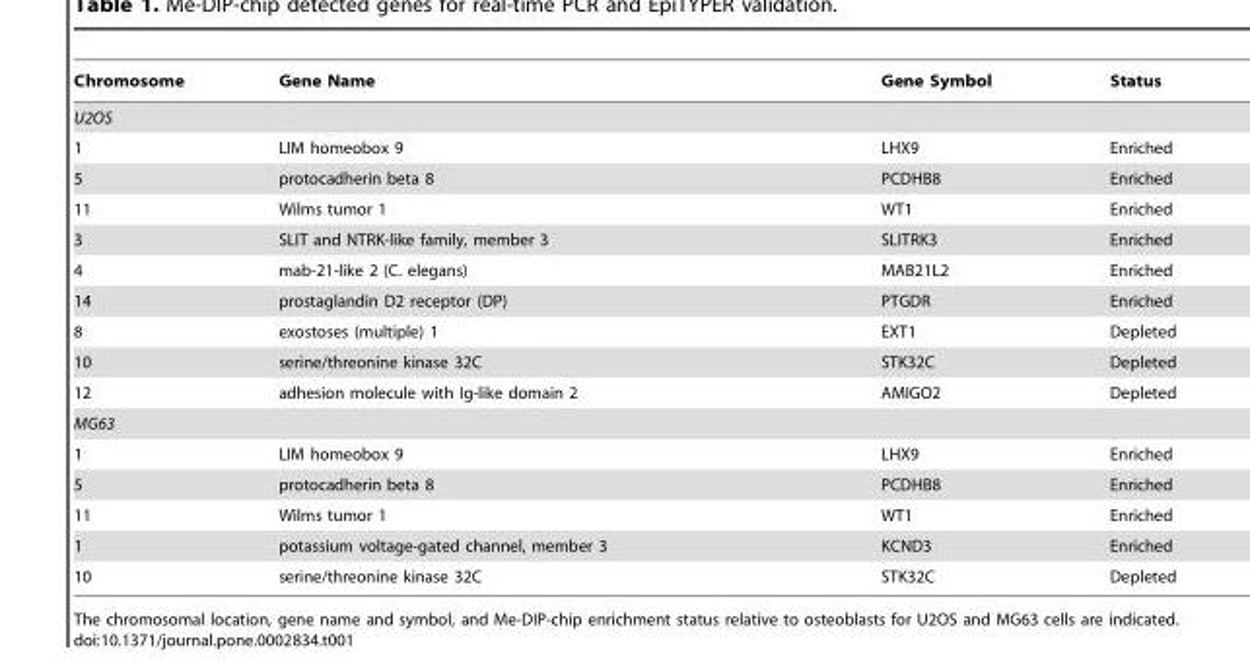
<table><thead><tr><td>Chromosome</td><td>Gene Name</td><td>Gene Symbol</td><td>Status</td></tr></thead><tbody><tr><td colspan="4">U2OS</td></tr><tr><td>1</td><td>LIM homeobox 9</td><td>LHX9</td><td>Enriched</td></tr><tr><td>5</td><td>protocadherin beta 8</td><td>PCDHB8</td><td>Enriched</td></tr><tr><td>11</td><td>Wilms tumor 1</td><td>WT1</td><td>Enriched</td></tr><tr><td>3</td><td>SLIT and NTRK-like family, member 3</td><td>SLITRK3</td><td>Enriched</td></tr><tr><td>4</td><td>mab-21-like 2 (C. elegans)</td><td>MAB21L2</td><td>Enriched</td></tr><tr><td>14</td><td>prostaglandin D2 receptor (DP)</td><td>PTGDR</td><td>Enriched</td></tr><tr><td>8</td><td>exostoses (multiple) 1</td><td>EXT1</td><td>Depleted</td></tr><tr><td>10</td><td>serine/threonine kinase 32C</td><td>STK32C</td><td>Depleted</td></tr><tr><td>12</td><td>adhesion molecule with Ig-like domain 2</td><td>AMIGO2</td><td>Depleted</td></tr><tr><td colspan="4">MG63</td></tr><tr><td>1</td><td>LIM homeobox 9</td><td>LHX9</td><td>Enriched</td></tr><tr><td>5</td><td>protocadherin beta 8</td><td>PCDHB8</td><td>Enriched</td></tr><tr><td>11</td><td>Wilms tumor 1</td><td>WT1</td><td>Enriched</td></tr><tr><td>1</td><td>potassium voltage-gated channel, member 3</td><td>KCND3</td><td>Enriched</td></tr><tr><td>10</td><td>serine/threonine kinase 32C</td><td>STK32C</td><td>Depleted</td></tr></tbody></table>